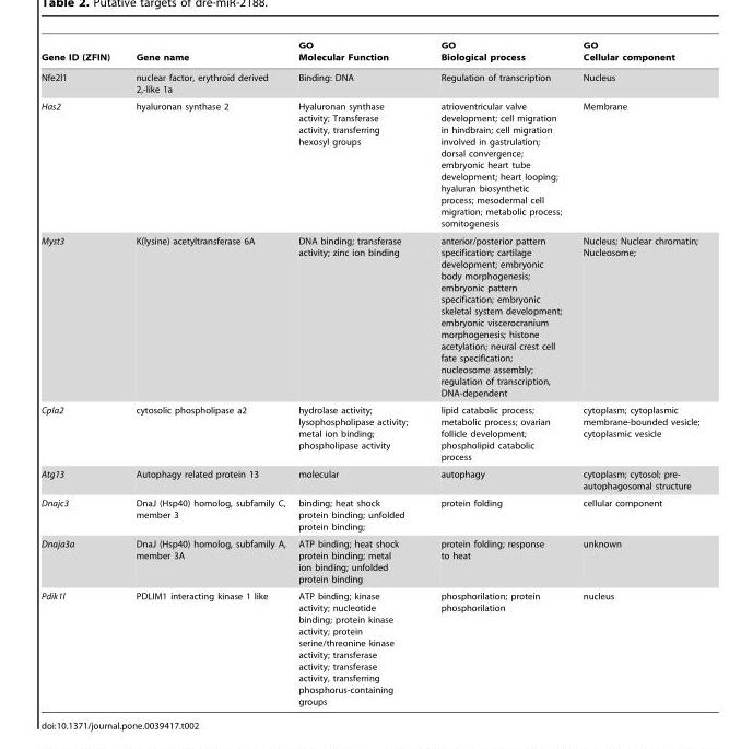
<table><thead><tr><td>Gene ID (ZFIN)</td><td>Gene name</td><td>GO Molecular Function</td><td>GO Biological process</td><td>GO Cellular component</td></tr></thead><tbody><tr><td>Nfe2l1</td><td>nuclear factor, erythroid derived 2,-like 1a</td><td>Binding: DNA</td><td>Regulation of transcription</td><td>Nucleus</td></tr><tr><td>Has2</td><td>hyaluronan synthase 2</td><td>Hyaluronan synthase activity; Transferase activity, transferring hexosyl groups</td><td>atrioventricular valve development; cell migration in hindbrain; cell migration involved in gastrulation; dorsal convergence; embryonic heart tube development; heart looping; hyaluran biosynthetic process; mesodermal cell migration; metabolic process; somitogenesis</td><td>Membrane</td></tr><tr><td>Myst3</td><td>K(lysine) acetyltransferase 6A</td><td>DNA binding; transferase activity; zinc ion binding</td><td>anterior/posterior pattern specification; cartilage development; embryonic body morphogenesis; embryonic pattern specification; embryonic skeletal system development; embryonic viscerocranium morphogenesis; histone acetylation; neural crest cell fate specification; nucleosome assembly; regulation of transcription, DNA-dependent</td><td>Nucleus; Nuclear chromatin; Nucleosome;</td></tr><tr><td>Cpla2</td><td>cytosolic phospholipase a2</td><td>hydrolase activity; lysophospholipase activity; metal ion binding; phospholipase activity</td><td>lipid catabolic process; metabolic process; ovarian follicle development; phospholipid catabolic process</td><td>cytoplasm; cytoplasmic membrane-bounded vesicle; cytoplasmic vesicle</td></tr><tr><td>Atg13</td><td>Autophagy related protein 13</td><td>molecular</td><td>autophagy</td><td>cytoplasm; cytosol; pre- autophagosomal structure</td></tr><tr><td>Dnajc3</td><td>DnaJ (Hsp40) homolog, subfamily C, member 3</td><td>binding; heat shock protein binding; unfolded protein binding;</td><td>protein folding</td><td>cellular component</td></tr><tr><td>Dnaja3a</td><td>DnaJ (Hsp40) homolog, subfamily A, member 3A</td><td>ATP binding; heat shock protein binding; metal ion binding; unfolded protein binding</td><td>protein folding; response to heat</td><td>unknown</td></tr><tr><td>Pdik1l</td><td>PDLIM1 interacting kinase 1 like</td><td>ATP binding; kinase activity; nucleotide binding; protein kinase activity; protein serine/threonine kinase activity; transferase activity; transferase activity, transferring phosphorus-containing groups</td><td>phosphorilation; protein phosphorilation</td><td>nucleus</td></tr></tbody></table>